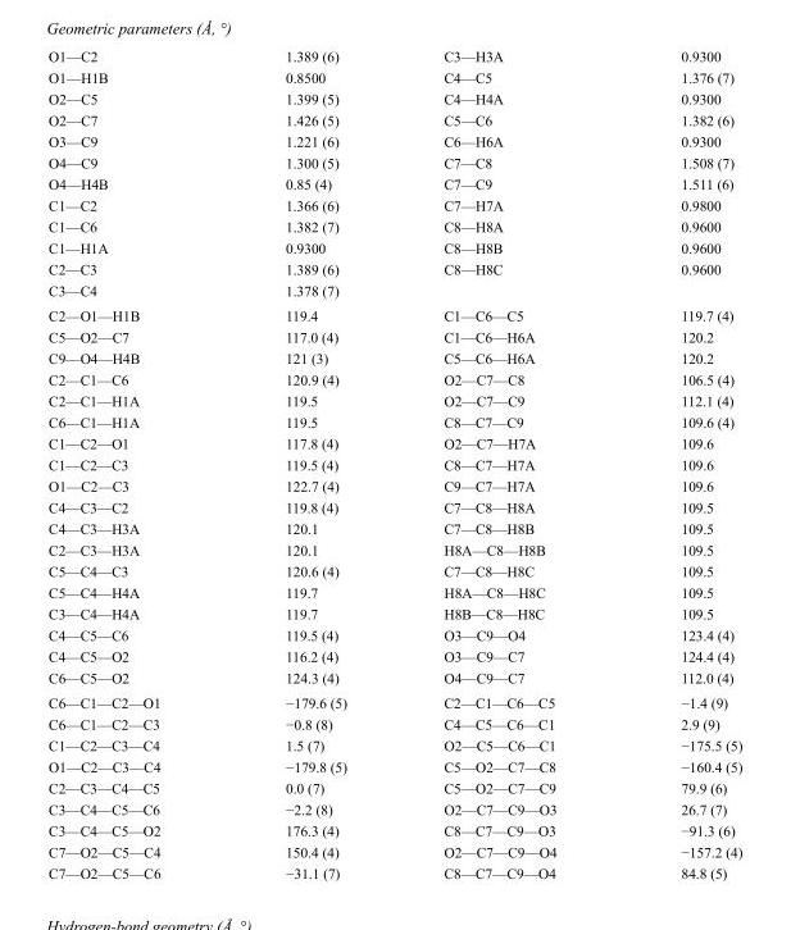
<table><tbody><tr><td>O1—C2</td><td>1.389 (6)</td><td>C3—H3A</td><td>0.9300</td></tr><tr><td>O1—H1B</td><td>0.8500</td><td>C4—C5</td><td>1.376 (7)</td></tr><tr><td>O2—C5</td><td>1.399 (5)</td><td>C4—H4A</td><td>0.9300</td></tr><tr><td>O2—C7</td><td>1.426 (5)</td><td>C5—C6</td><td>1.382 (6)</td></tr><tr><td>O3—C9</td><td>1.221 (6)</td><td>C6—H6A</td><td>0.9300</td></tr><tr><td>O4—C9</td><td>1.300 (5)</td><td>C7—C8</td><td>1.508 (7)</td></tr><tr><td>O4—H4B</td><td>0.85 (4)</td><td>C7—C9</td><td>1.511 (6)</td></tr><tr><td>C1—C2</td><td>1.366 (6)</td><td>C7—H7A</td><td>0.9800</td></tr><tr><td>C1—C6</td><td>1.382 (7)</td><td>C8—H8A</td><td>0.9600</td></tr><tr><td>C1—H1A</td><td>0.9300</td><td>C8—H8B</td><td>0.9600</td></tr><tr><td>C2—C3</td><td>1.389 (6)</td><td>C8—H8C</td><td>0.9600</td></tr><tr><td>C3—C4</td><td>1.378 (7)</td><td></td><td></td></tr><tr><td>C2—O1—H1B</td><td>119.4</td><td>C1—C6—C5</td><td>119.7 (4)</td></tr><tr><td>C5—O2—C7</td><td>117.0 (4)</td><td>C1—C6—H6A</td><td>120.2</td></tr><tr><td>C9—O4—H4B</td><td>121 (3)</td><td>C5—C6—H6A</td><td>120.2</td></tr><tr><td>C2—C1—C6</td><td>120.9 (4)</td><td>O2—C7—C8</td><td>106.5 (4)</td></tr><tr><td>C2—C1—H1A</td><td>119.5</td><td>O2—C7—C9</td><td>112.1 (4)</td></tr><tr><td>C6—C1—H1A</td><td>119.5</td><td>C8—C7—C9</td><td>109.6 (4)</td></tr><tr><td>C1—C2—O1</td><td>117.8 (4)</td><td>O2—C7—H7A</td><td>109.6</td></tr><tr><td>C1—C2—C3</td><td>119.5 (4)</td><td>C8—C7—H7A</td><td>109.6</td></tr><tr><td>O1—C2—C3</td><td>122.7 (4)</td><td>C9—C7—H7A</td><td>109.6</td></tr><tr><td>C4—C3—C2</td><td>119.8 (4)</td><td>C7—C8—H8A</td><td>109.5</td></tr><tr><td>C4—C3—H3A</td><td>120.1</td><td>C7—C8—H8B</td><td>109.5</td></tr><tr><td>C2—C3—H3A</td><td>120.1</td><td>H8A—C8—H8B</td><td>109.5</td></tr><tr><td>C5—C4—C3</td><td>120.6 (4)</td><td>C7—C8—H8C</td><td>109.5</td></tr><tr><td>C5—C4—H4A</td><td>119.7</td><td>H8A—C8—H8C</td><td>109.5</td></tr><tr><td>C3—C4—H4A</td><td>119.7</td><td>H8B—C8—H8C</td><td>109.5</td></tr><tr><td>C4—C5—C6</td><td>119.5 (4)</td><td>O3—C9—O4</td><td>123.4 (4)</td></tr><tr><td>C4—C5—O2</td><td>116.2 (4)</td><td>O3—C9—C7</td><td>124.4 (4)</td></tr><tr><td>C6—C5—O2</td><td>124.3 (4)</td><td>O4—C9—C7</td><td>112.0 (4)</td></tr><tr><td>C6—C1—C2—O1</td><td>−179.6 (5)</td><td>C2—C1—C6—C5</td><td>−1.4 (9)</td></tr><tr><td>C6—C1—C2—C3</td><td>−0.8 (8)</td><td>C4—C5—C6—C1</td><td>2.9 (9)</td></tr><tr><td>C1—C2—C3—C4</td><td>1.5 (7)</td><td>O2—C5—C6—C1</td><td>−175.5 (5)</td></tr><tr><td>O1—C2—C3—C4</td><td>−179.8 (5)</td><td>C5—O2—C7—C8</td><td>−160.4 (5)</td></tr><tr><td>C2—C3—C4—C5</td><td>0.0 (7)</td><td>C5—O2—C7—C9</td><td>79.9 (6)</td></tr><tr><td>C3—C4—C5—C6</td><td>−2.2 (8)</td><td>O2—C7—C9—O3</td><td>26.7 (7)</td></tr><tr><td>C3—C4—C5—O2</td><td>176.3 (4)</td><td>C8—C7—C9—O3</td><td>−91.3 (6)</td></tr><tr><td>C7—O2—C5—C4</td><td>150.4 (4)</td><td>O2—C7—C9—O4</td><td>−157.2 (4)</td></tr><tr><td>C7—O2—C5—C6</td><td>−31.1 (7)</td><td>C8—C7—C9—O4</td><td>84.8 (5)</td></tr></tbody></table>